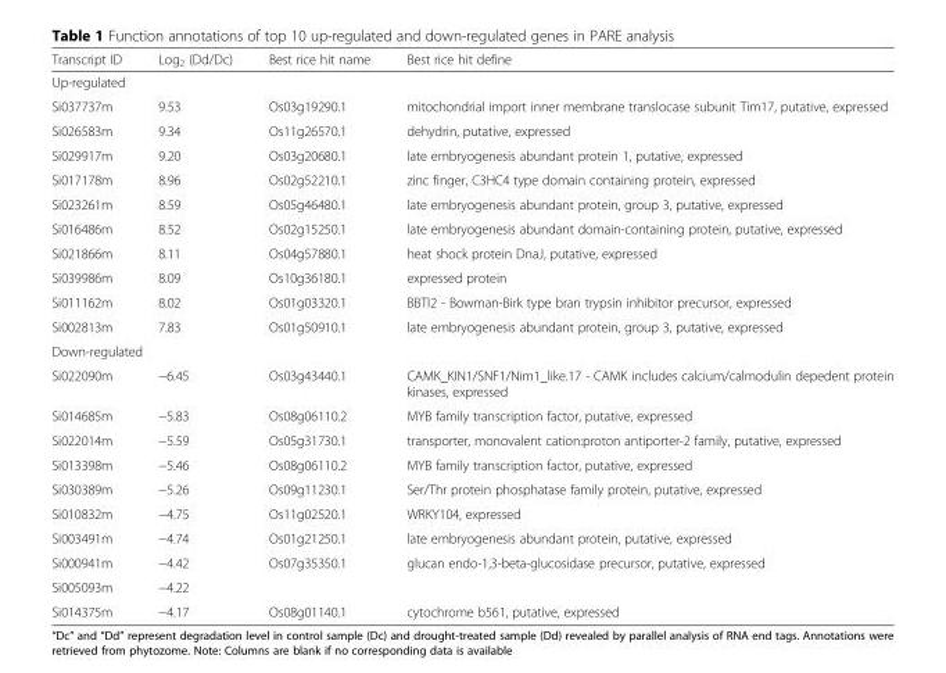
<table><thead><tr><td>Transcript ID</td><td>Log<sub>2</sub> (Dd/Dc)</td><td>Best rice hit name</td><td>Best rice hit define</td></tr></thead><tbody><tr><td colspan="4">Up-regulated</td></tr><tr><td>Si037737m</td><td>9.53</td><td>Os03g19290.1</td><td>mitochondrial import inner membrane translocase subunit Tim17, putative, expressed</td></tr><tr><td>Si026583m</td><td>9.34</td><td>Os11g26570.1</td><td>dehydrin, putative, expressed</td></tr><tr><td>Si029917m</td><td>9.20</td><td>Os03g20680.1</td><td>late embryogenesis abundant protein 1, putative, expressed</td></tr><tr><td>Si017178m</td><td>8.96</td><td>Os02g52210.1</td><td>zinc finger, C3HC4 type domain containing protein, expressed</td></tr><tr><td>Si023261m</td><td>8.59</td><td>Os05g46480.1</td><td>late embryogenesis abundant protein, group 3, putative, expressed</td></tr><tr><td>Si016486m</td><td>8.52</td><td>Os02g15250.1</td><td>late embryogenesis abundant domain-containing protein, putative, expressed</td></tr><tr><td>Si021866m</td><td>8.11</td><td>Os04g57880.1</td><td>heat shock protein DnaJ, putative, expressed</td></tr><tr><td>Si039986m</td><td>8.09</td><td>Os10g36180.1</td><td>expressed protein</td></tr><tr><td>Si011162m</td><td>8.02</td><td>Os01g03320.1</td><td>BBTI2 - Bowman-Birk type bran trypsin inhibitor precursor, expressed</td></tr><tr><td>Si002813m</td><td>7.83</td><td>Os01g50910.1</td><td>late embryogenesis abundant protein, group 3, putative, expressed</td></tr><tr><td colspan="4">Down-regulated</td></tr><tr><td>Si022090m</td><td>−6.45</td><td>Os03g43440.1</td><td>CAMK_KIN1/SNF1/Nim1_like.17 - CAMK includes calcium/calmodulin depedent protein kinases, expressed</td></tr><tr><td>Si014685m</td><td>−5.83</td><td>Os08g06110.2</td><td>MYB family transcription factor, putative, expressed</td></tr><tr><td>Si022014m</td><td>−5.59</td><td>Os05g31730.1</td><td>transporter, monovalent cation:proton antiporter-2 family, putative, expressed</td></tr><tr><td>Si013398m</td><td>−5.46</td><td>Os08g06110.2</td><td>MYB family transcription factor, putative, expressed</td></tr><tr><td>Si030389m</td><td>−5.26</td><td>Os09g11230.1</td><td>Ser/Thr protein phosphatase family protein, putative, expressed</td></tr><tr><td>Si010832m</td><td>−4.75</td><td>Os11g02520.1</td><td>WRKY104, expressed</td></tr><tr><td>Si003491m</td><td>−4.74</td><td>Os01g21250.1</td><td>late embryogenesis abundant protein, putative, expressed</td></tr><tr><td>Si000941m</td><td>−4.42</td><td>Os07g35350.1</td><td>glucan endo-1,3-beta-glucosidase precursor, putative, expressed</td></tr><tr><td>Si005093m</td><td>−4.22</td><td></td><td></td></tr><tr><td>Si014375m</td><td>−4.17</td><td>Os08g01140.1</td><td>cytochrome b561, putative, expressed</td></tr></tbody></table>